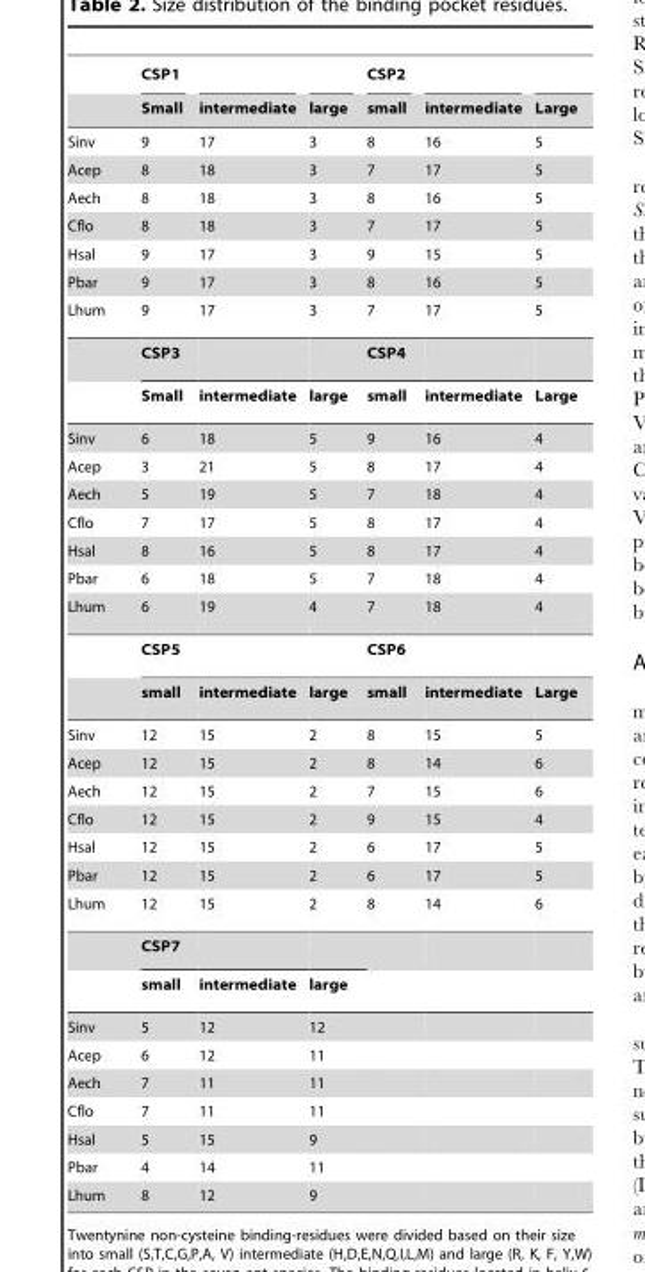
<table><thead><tr><td rowspan="2"></td><td rowspan="2">CSP1 Small</td><td rowspan="2">intermediate</td><td rowspan="2">large</td><td rowspan="2">CSP2 small</td><td rowspan="2">intermediate</td><td rowspan="2">Large</td></tr><tr></tr></thead><tbody><tr><td>Sinv</td><td>9</td><td>17</td><td>3</td><td>8</td><td>16</td><td>5</td></tr><tr><td>Acep</td><td>8</td><td>18</td><td>3</td><td>7</td><td>17</td><td>5</td></tr><tr><td>Aech</td><td>8</td><td>18</td><td>3</td><td>8</td><td>16</td><td>5</td></tr><tr><td>Cflo</td><td>8</td><td>18</td><td>3</td><td>7</td><td>17</td><td>5</td></tr><tr><td>Hsal</td><td>9</td><td>17</td><td>3</td><td>9</td><td>15</td><td>5</td></tr><tr><td>Pbar</td><td>9</td><td>17</td><td>3</td><td>8</td><td>16</td><td>5</td></tr><tr><td rowspan="3">Lhum</td><td>9</td><td>17</td><td>3</td><td>7</td><td>17</td><td>5</td></tr><tr><td>CSP3</td><td></td><td></td><td>CSP4</td><td></td><td></td></tr><tr><td>Small</td><td>intermediate</td><td>large</td><td>small</td><td>intermediate</td><td>Large</td></tr><tr><td>Sinv</td><td>6</td><td>18</td><td>5</td><td>9</td><td>16</td><td>4</td></tr><tr><td>Acep</td><td>3</td><td>21</td><td>5</td><td>8</td><td>17</td><td>4</td></tr><tr><td>Aech</td><td>5</td><td>19</td><td>5</td><td>7</td><td>18</td><td>4</td></tr><tr><td>Cflo</td><td>7</td><td>17</td><td>5</td><td>8</td><td>17</td><td>4</td></tr><tr><td>Hsal</td><td>8</td><td>16</td><td>5</td><td>8</td><td>17</td><td>4</td></tr><tr><td>Pbar</td><td>6</td><td>18</td><td>5</td><td>7</td><td>18</td><td>4</td></tr><tr><td rowspan="3">Lhum</td><td>6</td><td>19</td><td>4</td><td>7</td><td>18</td><td>4</td></tr><tr><td>CSP5</td><td></td><td></td><td>CSP6</td><td></td><td></td></tr><tr><td>small</td><td>intermediate</td><td>large</td><td>small</td><td>intermediate</td><td>Large</td></tr><tr><td>Sinv</td><td>12</td><td>15</td><td>2</td><td>8</td><td>15</td><td>5</td></tr><tr><td>Acep</td><td>12</td><td>15</td><td>2</td><td>8</td><td>14</td><td>6</td></tr><tr><td>Aech</td><td>12</td><td>15</td><td>2</td><td>7</td><td>15</td><td>6</td></tr><tr><td>Cflo</td><td>12</td><td>15</td><td>2</td><td>9</td><td>15</td><td>4</td></tr><tr><td>Hsal</td><td>12</td><td>15</td><td>2</td><td>6</td><td>17</td><td>5</td></tr><tr><td>Pbar</td><td>12</td><td>15</td><td>2</td><td>6</td><td>17</td><td>5</td></tr><tr><td rowspan="3">Lhum</td><td>12</td><td>15</td><td>2</td><td>8</td><td>14</td><td>6</td></tr><tr><td>CSP7</td><td></td><td></td><td></td><td></td><td></td></tr><tr><td>small</td><td>intermediate</td><td>large</td><td></td><td></td><td></td></tr><tr><td>Sinv</td><td>5</td><td>12</td><td>12</td><td></td><td></td><td></td></tr><tr><td>Acep</td><td>6</td><td>12</td><td>11</td><td></td><td></td><td></td></tr><tr><td>Aech</td><td>7</td><td>11</td><td>11</td><td></td><td></td><td></td></tr><tr><td>Cflo</td><td>7</td><td>11</td><td>11</td><td></td><td></td><td></td></tr><tr><td>Hsal</td><td>5</td><td>15</td><td>9</td><td></td><td></td><td></td></tr><tr><td>Pbar</td><td>4</td><td>14</td><td>11</td><td></td><td></td><td></td></tr><tr><td>Lhum</td><td>8</td><td>12</td><td>9</td><td></td><td></td><td></td></tr></tbody></table>